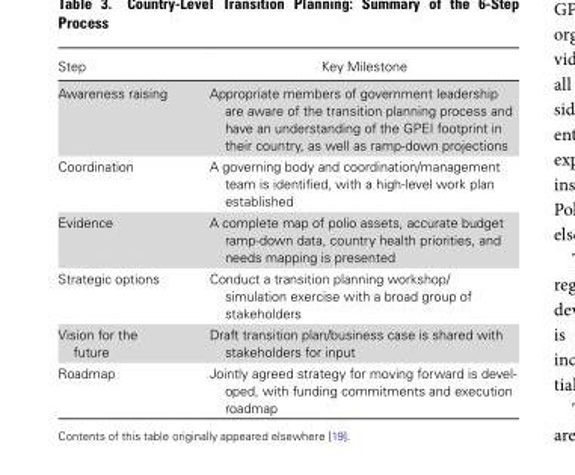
<table><thead><tr><td>Step</td><td>Key Milestone</td></tr></thead><tbody><tr><td>Awareness raising</td><td>Appropriate members of government leadership are aware of the transition planning process and have an understanding of the GPEI footprint in their country, as well as ramp-down projections</td></tr><tr><td>Coordination</td><td>A governing body and coordination/management team is identified, with a high-level work plan established</td></tr><tr><td>Evidence</td><td>A complete map of polio assets, accurate budget ramp-down data, country health priorities, and needs mapping is presented</td></tr><tr><td>Strategic options</td><td>Conduct a transition planning workshop/ simulation exercise with a broad group of stakeholders</td></tr><tr><td>Vision for the future</td><td>Draft transition plan/business case is shared with stakeholders for input</td></tr><tr><td>Roadmap</td><td>Jointly agreed strategy for moving forward is devel- oped, with funding commitments and execution roadmap</td></tr></tbody></table>